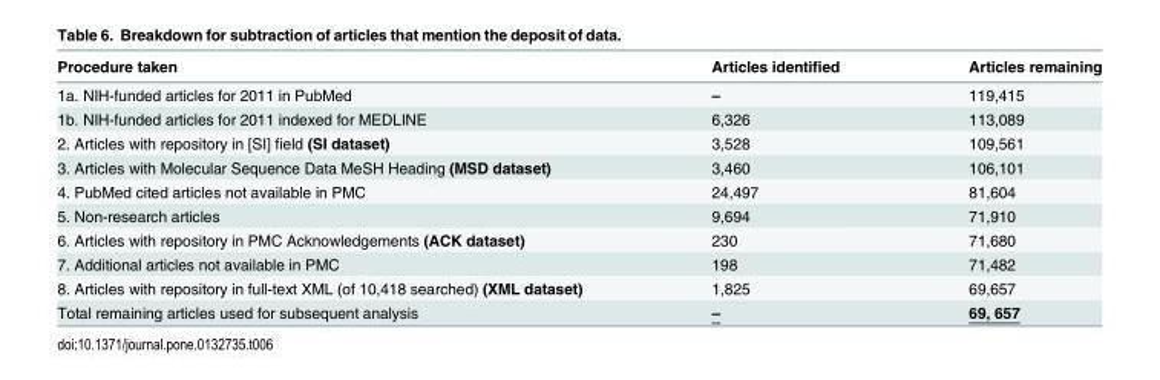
<table><thead><tr><td>Procedure taken</td><td>Articles identified</td><td>Articles remaining</td></tr></thead><tbody><tr><td>1a. NIH-funded articles for 2011 in PubMed</td><td>–</td><td>119,415</td></tr><tr><td>1b. NIH-funded articles for 2011 indexed for MEDLINE</td><td>6,326</td><td>113,089</td></tr><tr><td>2. Articles with repository in [SI] field (SI dataset)</td><td>3,528</td><td>109,561</td></tr><tr><td>3. Articles with Molecular Sequence Data MeSH Heading (MSD dataset)</td><td>3,460</td><td>106,101</td></tr><tr><td>4. PubMed cited articles not available in PMC</td><td>24,497</td><td>81,604</td></tr><tr><td>5. Non-research articles</td><td>9,694</td><td>71,910</td></tr><tr><td>6. Articles with repository in PMC Acknowledgements (ACK dataset)</td><td>230</td><td>71,680</td></tr><tr><td>7. Additional articles not available in PMC</td><td>198</td><td>71,482</td></tr><tr><td>8. Articles with repository in full-text XML (of 10,418 searched) (XML dataset)</td><td>1,825</td><td>69,657</td></tr><tr><td>Total remaining articles used for subsequent analysis</td><td>–</td><td>69, 657</td></tr></tbody></table>